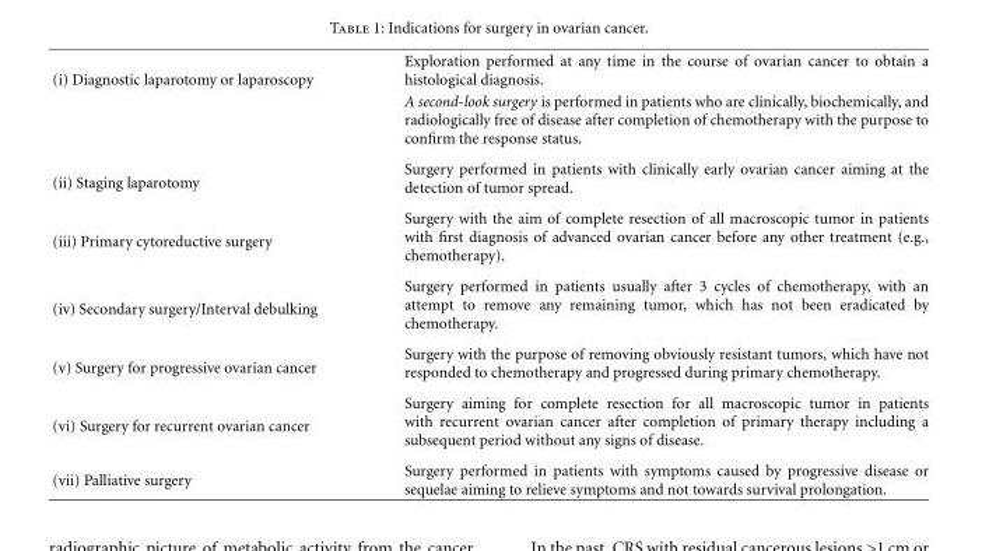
<table><tbody><tr><td rowspan="2">(i) Diagnostic laparotomy or laparoscopy</td><td>Exploration performed at any time in the course of ovarian cancer to obtain a histological diagnosis.</td></tr><tr><td>A second-look surgery is performed in patients who are clinically, biochemically, and radiologically free of disease after completion of chemotherapy with the purpose to confirm the response status.</td></tr><tr><td>(ii) Staging laparotomy</td><td>Surgery performed in patients with clinically early ovarian cancer aiming at the detection of tumor spread.</td></tr><tr><td>(iii) Primary cytoreductive surgery</td><td>Surgery with the aim of complete resection of all macroscopic tumor in patients with first diagnosis of advanced ovarian cancer before any other treatment (e.g., chemotherapy).</td></tr><tr><td>(iv) Secondary surgery/Interval debulking</td><td>Surgery performed in patients usually after 3 cycles of chemotherapy, with an attempt to remove any remaining tumor, which has not been eradicated by chemotherapy.</td></tr><tr><td>(v) Surgery for progressive ovarian cancer</td><td>Surgery with the purpose of removing obviously resistant tumors, which have not responded to chemotherapy and progressed during primary chemotherapy.</td></tr><tr><td>(vi) Surgery for recurrent ovarian cancer</td><td>Surgery aiming for complete resection for all macroscopic tumor in patients with recurrent ovarian cancer after completion of primary therapy including a subsequent period without any signs of disease.</td></tr><tr><td>(vii) Palliative surgery</td><td>Surgery performed in patients with symptoms caused by progressive disease or sequelae aiming to relieve symptoms and not towards survival prolongation.</td></tr></tbody></table>